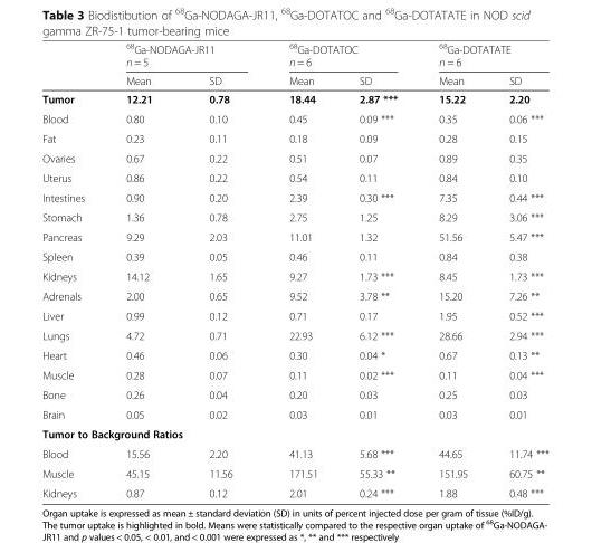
<table><thead><tr><td rowspan="2"></td><td colspan="2"><sup>68</sup>Ga-NODAGA-JR11 n = 5</td><td colspan="2"><sup>68</sup>Ga-DOTATOC n = 6</td><td colspan="2"><sup>68</sup>Ga-DOTATATE n = 6</td></tr><tr><td>Mean</td><td>SD</td><td>Mean</td><td>SD</td><td>Mean</td><td>SD</td></tr></thead><tbody><tr><td>Tumor</td><td>12.21</td><td>0.78</td><td>18.44</td><td>2.87 ***</td><td>15.22</td><td>2.20</td></tr><tr><td>Blood</td><td>0.80</td><td>0.10</td><td>0.45</td><td>0.09 ***</td><td>0.35</td><td>0.06 ***</td></tr><tr><td>Fat</td><td>0.23</td><td>0.11</td><td>0.18</td><td>0.09</td><td>0.28</td><td>0.15</td></tr><tr><td>Ovaries</td><td>0.67</td><td>0.22</td><td>0.51</td><td>0.07</td><td>0.89</td><td>0.35</td></tr><tr><td>Uterus</td><td>0.86</td><td>0.22</td><td>0.54</td><td>0.11</td><td>0.84</td><td>0.10</td></tr><tr><td>Intestines</td><td>0.90</td><td>0.20</td><td>2.39</td><td>0.30 ***</td><td>7.35</td><td>0.44 ***</td></tr><tr><td>Stomach</td><td>1.36</td><td>0.78</td><td>2.75</td><td>1.25</td><td>8.29</td><td>3.06 ***</td></tr><tr><td>Pancreas</td><td>9.29</td><td>2.03</td><td>11.01</td><td>1.32</td><td>51.56</td><td>5.47 ***</td></tr><tr><td>Spleen</td><td>0.39</td><td>0.05</td><td>0.46</td><td>0.11</td><td>0.84</td><td>0.38</td></tr><tr><td>Kidneys</td><td>14.12</td><td>1.65</td><td>9.27</td><td>1.73 ***</td><td>8.45</td><td>1.73 ***</td></tr><tr><td>Adrenals</td><td>2.00</td><td>0.65</td><td>9.52</td><td>3.78 **</td><td>15.20</td><td>7.26 **</td></tr><tr><td>Liver</td><td>0.99</td><td>0.12</td><td>0.71</td><td>0.17</td><td>1.95</td><td>0.52 ***</td></tr><tr><td>Lungs</td><td>4.72</td><td>0.71</td><td>22.93</td><td>6.12 ***</td><td>28.66</td><td>2.94 ***</td></tr><tr><td>Heart</td><td>0.46</td><td>0.06</td><td>0.30</td><td>0.04 *</td><td>0.67</td><td>0.13 **</td></tr><tr><td>Muscle</td><td>0.28</td><td>0.07</td><td>0.11</td><td>0.02 ***</td><td>0.11</td><td>0.04 ***</td></tr><tr><td>Bone</td><td>0.26</td><td>0.04</td><td>0.20</td><td>0.03</td><td>0.25</td><td>0.03</td></tr><tr><td>Brain</td><td>0.05</td><td>0.02</td><td>0.03</td><td>0.01</td><td>0.03</td><td>0.01</td></tr><tr><td colspan="7">Tumor to Background Ratios</td></tr><tr><td>Blood</td><td>15.56</td><td>2.20</td><td>41.13</td><td>5.68 ***</td><td>44.65</td><td>11.74 ***</td></tr><tr><td>Muscle</td><td>45.15</td><td>11.56</td><td>171.51</td><td>55.33 **</td><td>151.95</td><td>60.75 **</td></tr><tr><td>Kidneys</td><td>0.87</td><td>0.12</td><td>2.01</td><td>0.24 ***</td><td>1.88</td><td>0.48 ***</td></tr></tbody></table>